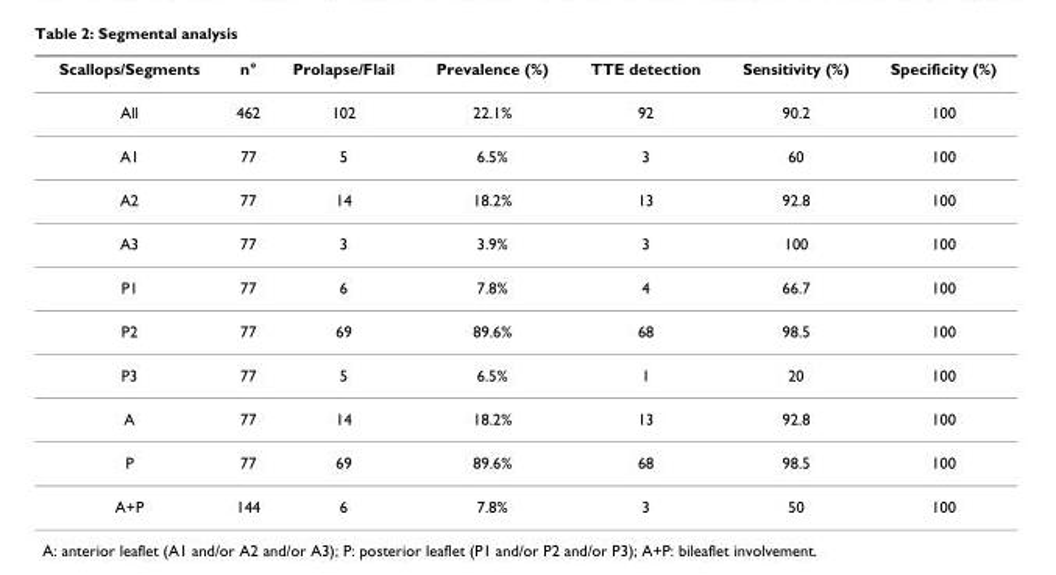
<table><thead><tr><td>Scallops/Segments</td><td>n°</td><td>Prolapse/Flail</td><td>Prevalence (%)</td><td>TTE detection</td><td>Sensitivity (%)</td><td>Specificity (%)</td></tr></thead><tbody><tr><td>All</td><td>462</td><td>102</td><td>22.1%</td><td>92</td><td>90.2</td><td>100</td></tr><tr><td>A1</td><td>77</td><td>5</td><td>6.5%</td><td>3</td><td>60</td><td>100</td></tr><tr><td>A2</td><td>77</td><td>14</td><td>18.2%</td><td>13</td><td>92.8</td><td>100</td></tr><tr><td>A3</td><td>77</td><td>3</td><td>3.9%</td><td>3</td><td>100</td><td>100</td></tr><tr><td>P1</td><td>77</td><td>6</td><td>7.8%</td><td>4</td><td>66.7</td><td>100</td></tr><tr><td>P2</td><td>77</td><td>69</td><td>89.6%</td><td>68</td><td>98.5</td><td>100</td></tr><tr><td>P3</td><td>77</td><td>5</td><td>6.5%</td><td>1</td><td>20</td><td>100</td></tr><tr><td>A</td><td>77</td><td>14</td><td>18.2%</td><td>13</td><td>92.8</td><td>100</td></tr><tr><td>P</td><td>77</td><td>69</td><td>89.6%</td><td>68</td><td>98.5</td><td>100</td></tr><tr><td>A+P</td><td>144</td><td>6</td><td>7.8%</td><td>3</td><td>50</td><td>100</td></tr></tbody></table>